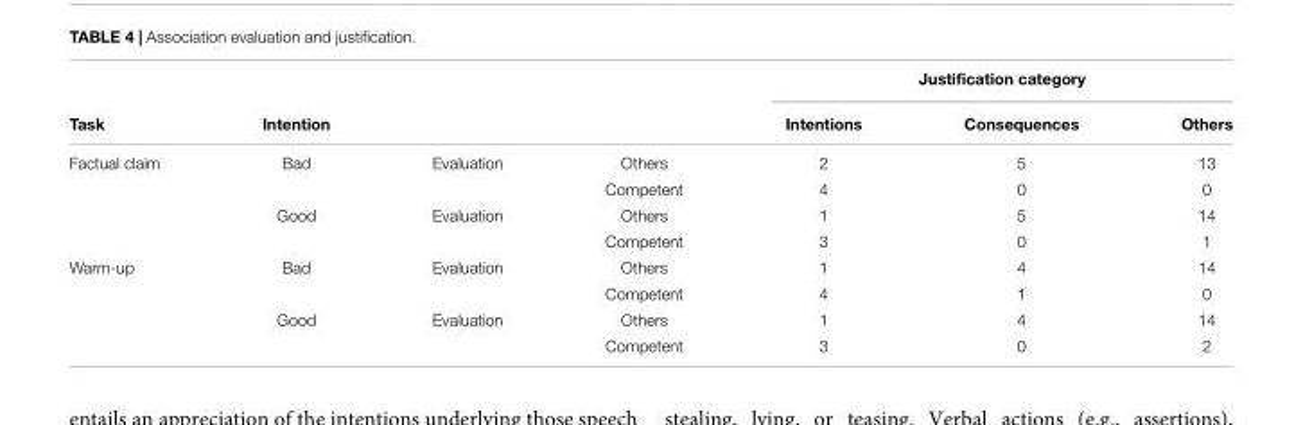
<table><thead><tr><td rowspan="2">Task</td><td rowspan="2">Intention</td><td rowspan="2"></td><td rowspan="2"></td><td colspan="3">Justification category</td></tr><tr><td>Intentions</td><td>Consequences</td><td>Others</td></tr></thead><tbody><tr><td rowspan="4">Factual claim</td><td>Bad</td><td>Evaluation</td><td>Others</td><td>2</td><td>5</td><td>13</td></tr><tr><td></td><td></td><td>Competent</td><td>4</td><td>0</td><td>0</td></tr><tr><td>Good</td><td>Evaluation</td><td>Others</td><td>1</td><td>5</td><td>14</td></tr><tr><td></td><td></td><td>Competent</td><td>3</td><td>0</td><td>1</td></tr><tr><td rowspan="4">Warm-up</td><td>Bad</td><td>Evaluation</td><td>Others</td><td>1</td><td>4</td><td>14</td></tr><tr><td></td><td></td><td>Competent</td><td>4</td><td>1</td><td>0</td></tr><tr><td>Good</td><td>Evaluation</td><td>Others</td><td>1</td><td>4</td><td>14</td></tr><tr><td></td><td></td><td>Competent</td><td>3</td><td>0</td><td>2</td></tr></tbody></table>